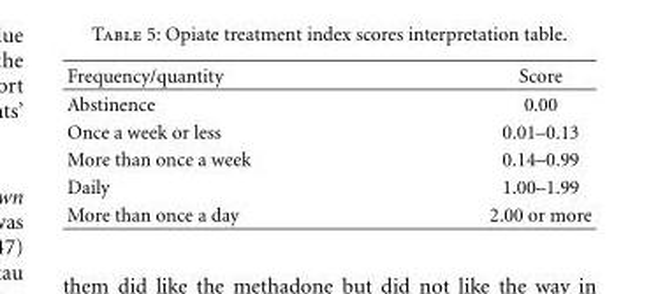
<table><thead><tr><td>Frequency/quantity</td><td>Score</td></tr></thead><tbody><tr><td>Abstinence</td><td>0.00</td></tr><tr><td>Once a week or less</td><td>0.01–0.13</td></tr><tr><td>More than once a week</td><td>0.14–0.99</td></tr><tr><td>Daily</td><td>1.00–1.99</td></tr><tr><td>More than once a day</td><td>2.00 or more</td></tr></tbody></table>